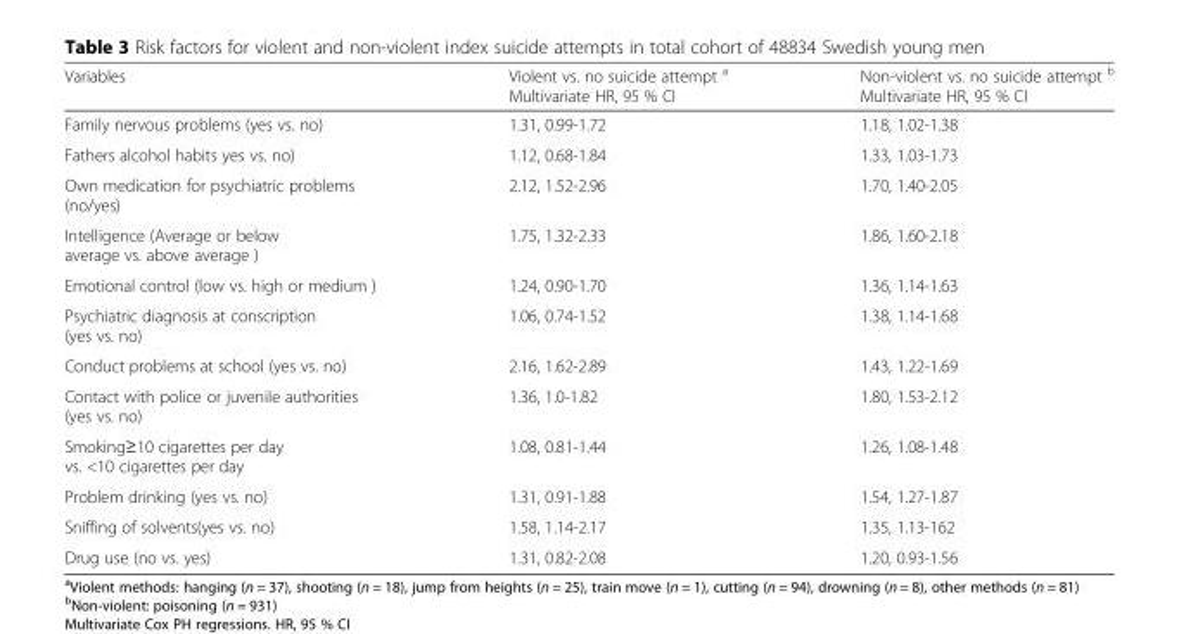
<table><thead><tr><td>Variables</td><td>Violent vs. no suicide attempt <sup>a</sup> Multivariate HR, 95 % CI</td><td>Non-violent vs. no suicide attempt <sup>b</sup> Multivariate HR, 95 % CI</td></tr></thead><tbody><tr><td>Family nervous problems (yes vs. no)</td><td>1.31, 0.99-1.72</td><td>1.18, 1.02-1.38</td></tr><tr><td>Fathers alcohol habits yes vs. no)</td><td>1.12, 0.68-1.84</td><td>1.33, 1.03-1.73</td></tr><tr><td>Own medication for psychiatric problems (no/yes)</td><td>2.12, 1.52-2.96</td><td>1.70, 1.40-2.05</td></tr><tr><td>Intelligence (Average or below average vs. above average )</td><td>1.75, 1.32-2.33</td><td>1.86, 1.60-2.18</td></tr><tr><td>Emotional control (low vs. high or medium )</td><td>1.24, 0.90-1.70</td><td>1.36, 1.14-1.63</td></tr><tr><td>Psychiatric diagnosis at conscription (yes vs. no)</td><td>1.06, 0.74-1.52</td><td>1.38, 1.14-1.68</td></tr><tr><td>Conduct problems at school (yes vs. no)</td><td>2.16, 1.62-2.89</td><td>1.43, 1.22-1.69</td></tr><tr><td>Contact with police or juvenile authorities (yes vs. no)</td><td>1.36, 1.0-1.82</td><td>1.80, 1.53-2.12</td></tr><tr><td>Smoking≥10 cigarettes per day vs. &lt;10 cigarettes per day</td><td>1.08, 0.81-1.44</td><td>1.26, 1.08-1.48</td></tr><tr><td>Problem drinking (yes vs. no)</td><td>1.31, 0.91-1.88</td><td>1.54, 1.27-1.87</td></tr><tr><td>Sniffing of solvents(yes vs. no)</td><td>1.58, 1.14-2.17</td><td>1.35, 1.13-162</td></tr><tr><td>Drug use (no vs. yes)</td><td>1.31, 0.82-2.08</td><td>1.20, 0.93-1.56</td></tr></tbody></table>